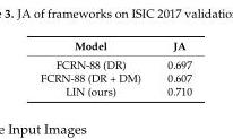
<table><thead><tr><td>Model</td><td>JA</td></tr></thead><tbody><tr><td>FCRN-88 (DR)</td><td>0.697</td></tr><tr><td>FCRN-88 (DR + DM)</td><td>0.607</td></tr><tr><td>LIN (ours)</td><td>0.710</td></tr></tbody></table>